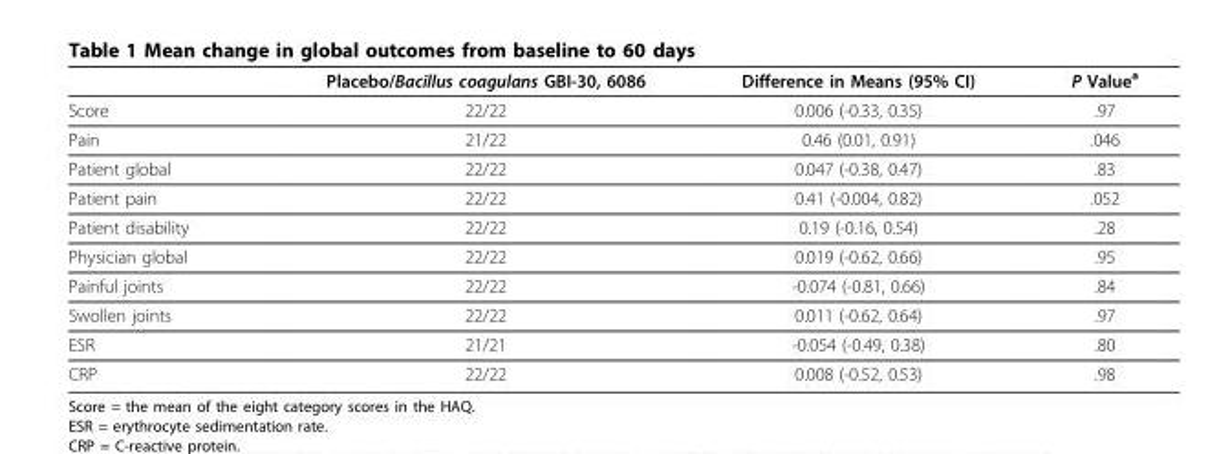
<table><thead><tr><td></td><td>Placebo/Bacillus coagulans GBI-30, 6086</td><td>Difference in Means (95% CI)</td><td>P Value<sup>a</sup></td></tr></thead><tbody><tr><td>Score</td><td>22/22</td><td>0.006 (-0.33, 0.35)</td><td>.97</td></tr><tr><td>Pain</td><td>21/22</td><td>0.46 (0.01, 0.91)</td><td>.046</td></tr><tr><td>Patient global</td><td>22/22</td><td>0.047 (-0.38, 0.47)</td><td>.83</td></tr><tr><td>Patient pain</td><td>22/22</td><td>0.41 (-0.004, 0.82)</td><td>.052</td></tr><tr><td>Patient disability</td><td>22/22</td><td>0.19 (-0.16, 0.54)</td><td>.28</td></tr><tr><td>Physician global</td><td>22/22</td><td>0.019 (-0.62, 0.66)</td><td>.95</td></tr><tr><td>Painful joints</td><td>22/22</td><td>-0.074 (-0.81, 0.66)</td><td>.84</td></tr><tr><td>Swollen joints</td><td>22/22</td><td>0.011 (-0.62, 0.64)</td><td>.97</td></tr><tr><td>ESR</td><td>21/21</td><td>-0.054 (-0.49, 0.38)</td><td>.80</td></tr><tr><td>CRP</td><td>22/22</td><td>0.008 (-0.52, 0.53)</td><td>.98</td></tr></tbody></table>